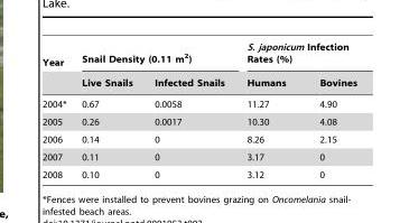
<table><thead><tr><td rowspan="2">Year</td><td colspan="2">Snail Density (0.11 m<sup>2</sup>)</td><td colspan="2">S. japonicum Infection Rates (%)</td></tr><tr><td>Live Snails</td><td>Infected Snails</td><td>Humans</td><td>Bovines</td></tr></thead><tbody><tr><td>2004*</td><td>0.67</td><td>0.0058</td><td>11.27</td><td>4.90</td></tr><tr><td>2005</td><td>0.26</td><td>0.0017</td><td>10.30</td><td>4.08</td></tr><tr><td>2006</td><td>0.14</td><td>0</td><td>8.26</td><td>2.15</td></tr><tr><td>2007</td><td>0.11</td><td>0</td><td>3.17</td><td>0</td></tr><tr><td>2008</td><td>0.10</td><td>0</td><td>3.12</td><td>0</td></tr></tbody></table>